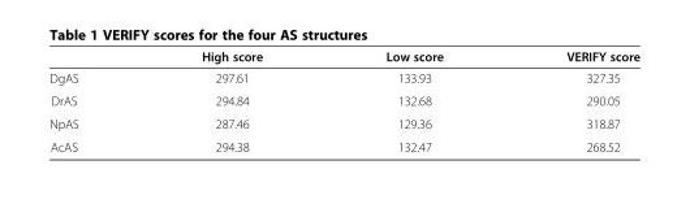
<table><thead><tr><td></td><td>High score</td><td>Low score</td><td>VERIFY score</td></tr></thead><tbody><tr><td>DgAS</td><td>297.61</td><td>133.93</td><td>327.35</td></tr><tr><td>DrAS</td><td>294.84</td><td>132.68</td><td>290.05</td></tr><tr><td>NpAS</td><td>287.46</td><td>129.36</td><td>318.87</td></tr><tr><td>AcAS</td><td>294.38</td><td>132.47</td><td>268.52</td></tr></tbody></table>